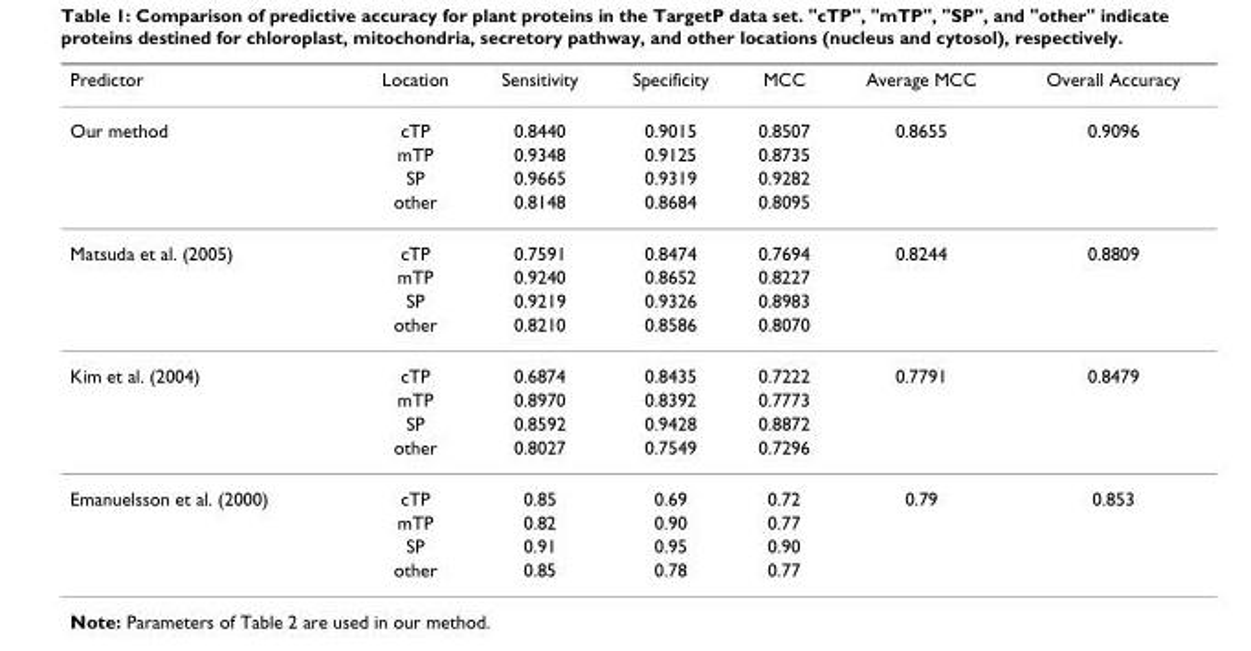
<table><thead><tr><td>Predictor</td><td>Location</td><td>Sensitivity</td><td>Specificity</td><td>MCC</td><td>Average MCC</td><td>Overall Accuracy</td></tr></thead><tbody><tr><td rowspan="4">Our method</td><td>cTP</td><td>0.8440</td><td>0.9015</td><td>0.8507</td><td>0.8655</td><td>0.9096</td></tr><tr><td>mTP</td><td>0.9348</td><td>0.9125</td><td>0.8735</td><td></td><td></td></tr><tr><td>SP</td><td>0.9665</td><td>0.9319</td><td>0.9282</td><td></td><td></td></tr><tr><td>other</td><td>0.8148</td><td>0.8684</td><td>0.8095</td><td></td><td></td></tr><tr><td rowspan="4">Matsuda et al. (2005)</td><td>cTP</td><td>0.7591</td><td>0.8474</td><td>0.7694</td><td>0.8244</td><td>0.8809</td></tr><tr><td>mTP</td><td>0.9240</td><td>0.8652</td><td>0.8227</td><td></td><td></td></tr><tr><td>SP</td><td>0.9219</td><td>0.9326</td><td>0.8983</td><td></td><td></td></tr><tr><td>other</td><td>0.8210</td><td>0.8586</td><td>0.8070</td><td></td><td></td></tr><tr><td rowspan="4">Kim et al. (2004)</td><td>cTP</td><td>0.6874</td><td>0.8435</td><td>0.7222</td><td>0.7791</td><td>0.8479</td></tr><tr><td>mTP</td><td>0.8970</td><td>0.8392</td><td>0.7773</td><td></td><td></td></tr><tr><td>SP</td><td>0.8592</td><td>0.9428</td><td>0.8872</td><td></td><td></td></tr><tr><td>other</td><td>0.8027</td><td>0.7549</td><td>0.7296</td><td></td><td></td></tr><tr><td rowspan="4">Emanuelsson et al. (2000)</td><td>cTP</td><td>0.85</td><td>0.69</td><td>0.72</td><td>0.79</td><td>0.853</td></tr><tr><td>mTP</td><td>0.82</td><td>0.90</td><td>0.77</td><td></td><td></td></tr><tr><td>SP</td><td>0.91</td><td>0.95</td><td>0.90</td><td></td><td></td></tr><tr><td>other</td><td>0.85</td><td>0.78</td><td>0.77</td><td></td><td></td></tr></tbody></table>